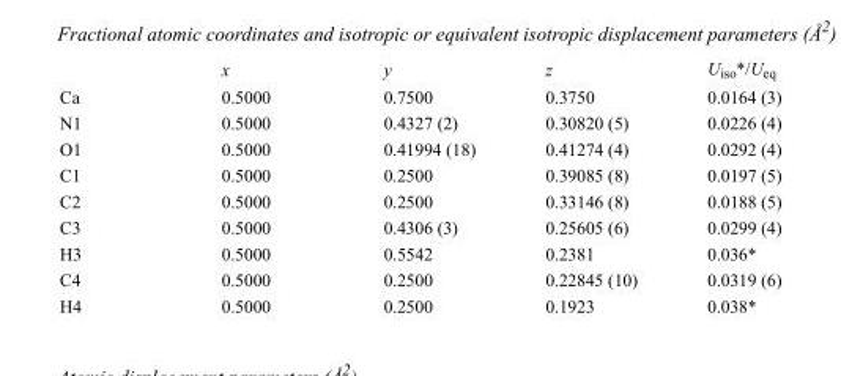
<table><thead><tr><td></td><td>x</td><td>y</td><td>z</td><td>U<sub>iso</sub>*/U<sub>eq</sub></td></tr></thead><tbody><tr><td>Ca</td><td>0.5000</td><td>0.7500</td><td>0.3750</td><td>0.0164 (3)</td></tr><tr><td>N1</td><td>0.5000</td><td>0.4327 (2)</td><td>0.30820 (5)</td><td>0.0226 (4)</td></tr><tr><td>O1</td><td>0.5000</td><td>0.41994 (18)</td><td>0.41274 (4)</td><td>0.0292 (4)</td></tr><tr><td>C1</td><td>0.5000</td><td>0.2500</td><td>0.39085 (8)</td><td>0.0197 (5)</td></tr><tr><td>C2</td><td>0.5000</td><td>0.2500</td><td>0.33146 (8)</td><td>0.0188 (5)</td></tr><tr><td>C3</td><td>0.5000</td><td>0.4306 (3)</td><td>0.25605 (6)</td><td>0.0299 (4)</td></tr><tr><td>H3</td><td>0.5000</td><td>0.5542</td><td>0.2381</td><td>0.036*</td></tr><tr><td>C4</td><td>0.5000</td><td>0.2500</td><td>0.22845 (10)</td><td>0.0319 (6)</td></tr><tr><td>H4</td><td>0.5000</td><td>0.2500</td><td>0.1923</td><td>0.038*</td></tr></tbody></table>